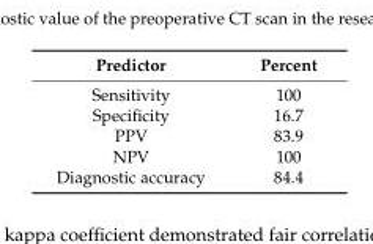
<table><thead><tr><td>Predictor</td><td>Percent</td></tr></thead><tbody><tr><td>Sensitivity</td><td>100</td></tr><tr><td>Specificity</td><td>16.7</td></tr><tr><td>PPV</td><td>83.9</td></tr><tr><td>NPV</td><td>100</td></tr><tr><td>Diagnostic accuracy</td><td>84.4</td></tr></tbody></table>